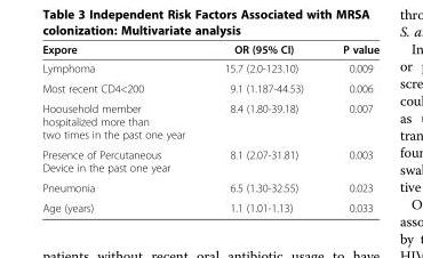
<table><thead><tr><td>Expore</td><td>OR (95% CI)</td><td>P value</td></tr></thead><tbody><tr><td>Lymphoma</td><td>15.7 (2.0-123.10)</td><td>0.009</td></tr><tr><td>Most recent CD4&lt;200</td><td>9.1 (1.187-44.53)</td><td>0.006</td></tr><tr><td>Hoousehold member hospitalized more than two times in the past one year</td><td>8.4 (1.80-39.18)</td><td>0.007</td></tr><tr><td>Presence of Percutaneous Device in the past one year</td><td>8.1 (2.07-31.81)</td><td>0.003</td></tr><tr><td>Pneumonia</td><td>6.5 (1.30-32.55)</td><td>0.023</td></tr><tr><td>Age (years)</td><td>1.1 (1.01-1.13)</td><td>0.033</td></tr></tbody></table>